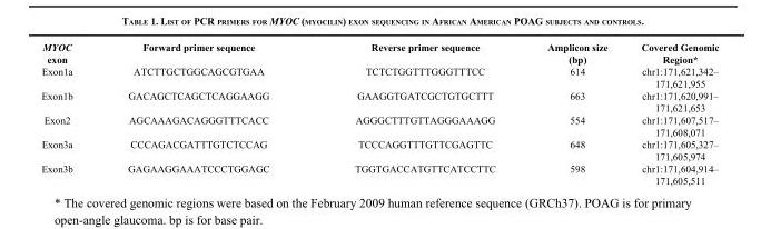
<table><thead><tr><td>MYOC exon</td><td>Forward primer sequence</td><td>Reverse primer sequence</td><td>Amplicon size (bp)</td><td>Covered Genomic Region*</td></tr></thead><tbody><tr><td>Exon1a</td><td>ATCTTGCTGGCAGCGTGAA</td><td>TCTCTGGTTTGGGTTTCC</td><td>614</td><td>chr1:171,621,342– 171,621,955</td></tr><tr><td>Exon1b</td><td>GACAGCTCAGCTCAGGAAGG</td><td>GAAGGTGATCGCTGTGCTTT</td><td>663</td><td>chr1:171,620,991– 171,621,653</td></tr><tr><td>Exon2</td><td>AGCAAAGACAGGGTTTCACC</td><td>AGGGCTTTGTTAGGGAAAGG</td><td>554</td><td>chr1:171,607,517– 171,608,071</td></tr><tr><td>Exon3a</td><td>CCCAGACGATTTGTCTCCAG</td><td>TCCCAGGTTTGTTCGAGTTC</td><td>648</td><td>chr1:171,605,327– 171,605,974</td></tr><tr><td>Exon3b</td><td>GAGAAGGAAATCCCTGGAGC</td><td>TGGTGACCATGTTCATCCTTC</td><td>598</td><td>chr1:171,604,914– 171,605,511</td></tr></tbody></table>